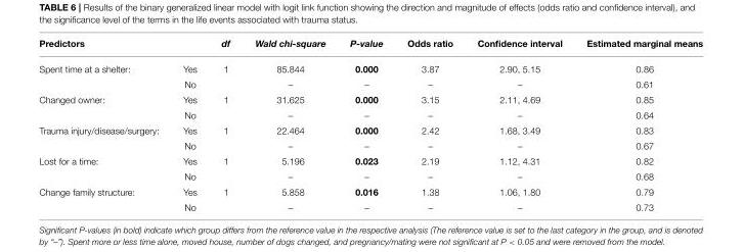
<table><thead><tr><td>Predictors</td><td></td><td>df</td><td>Wald chi-square</td><td>P-value</td><td>Odds ratio</td><td>Confidence interval</td><td>Estimated marginal means</td></tr></thead><tbody><tr><td rowspan="2">Spent time at a shelter:</td><td>Yes</td><td>1</td><td>85.844</td><td>0.000</td><td>3.87</td><td>2.90, 5.15</td><td>0.86</td></tr><tr><td>No</td><td></td><td>–</td><td>–</td><td>–</td><td>–</td><td>0.61</td></tr><tr><td rowspan="2">Changed owner:</td><td>Yes</td><td>1</td><td>31.625</td><td>0.000</td><td>3.15</td><td>2.11, 4.69</td><td>0.85</td></tr><tr><td>No</td><td></td><td>–</td><td>–</td><td>–</td><td>–</td><td>0.64</td></tr><tr><td rowspan="2">Trauma injury/disease/surgery:</td><td>Yes</td><td>1</td><td>22.464</td><td>0.000</td><td>2.42</td><td>1.68, 3.49</td><td>0.83</td></tr><tr><td>No</td><td></td><td>–</td><td>–</td><td>–</td><td>–</td><td>0.67</td></tr><tr><td rowspan="2">Lost for a time:</td><td>Yes</td><td>1</td><td>5.196</td><td>0.023</td><td>2.19</td><td>1.12, 4.31</td><td>0.82</td></tr><tr><td>No</td><td></td><td>–</td><td>–</td><td>–</td><td>–</td><td>0.68</td></tr><tr><td rowspan="2">Change family structure:</td><td>Yes</td><td>1</td><td>5.858</td><td>0.016</td><td>1.38</td><td>1.06, 1.80</td><td>0.79</td></tr><tr><td>No</td><td></td><td>–</td><td>–</td><td>–</td><td>–</td><td>0.73</td></tr></tbody></table>